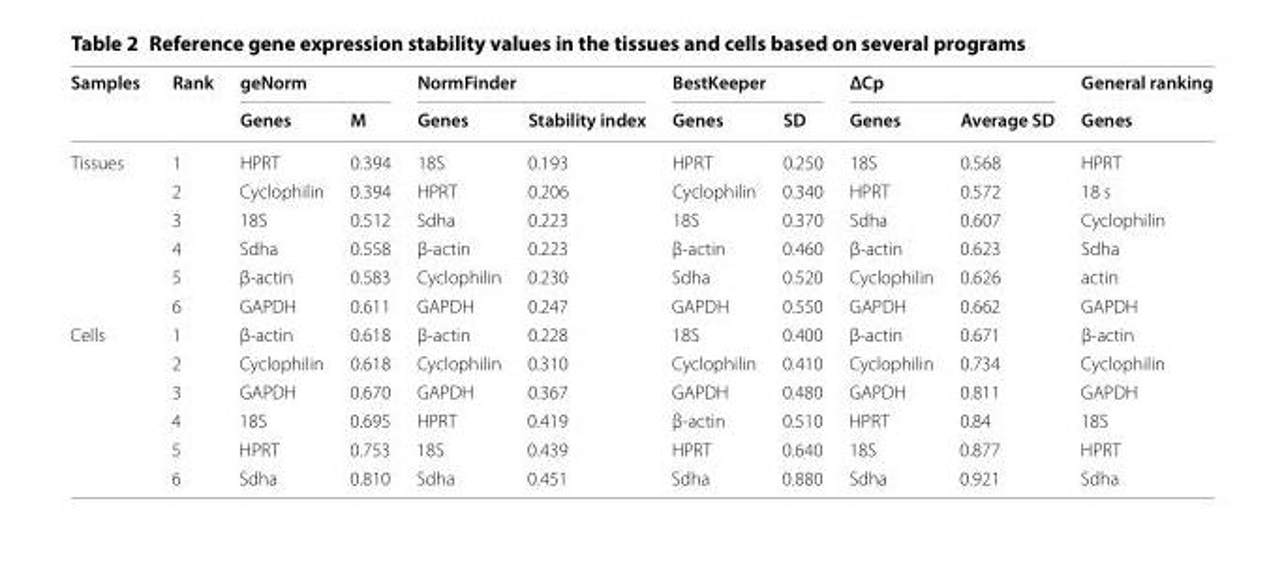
<table><thead><tr><td rowspan="2">Samples</td><td rowspan="2">Rank</td><td colspan="2">geNorm</td><td colspan="2">NormFinder</td><td colspan="2">BestKeeper</td><td colspan="2">ΔCp</td><td rowspan="2">General ranking Genes</td></tr><tr><td>Genes</td><td>M</td><td>Genes</td><td>Stability index</td><td>Genes</td><td>SD</td><td>Genes</td><td>Average SD</td></tr></thead><tbody><tr><td rowspan="6">Tissues</td><td>1</td><td>HPRT</td><td>0.394</td><td>18S</td><td>0.193</td><td>HPRT</td><td>0.250</td><td>18S</td><td>0.568</td><td>HPRT</td></tr><tr><td>2</td><td>Cyclophilin</td><td>0.394</td><td>HPRT</td><td>0.206</td><td>Cyclophilin</td><td>0.340</td><td>HPRT</td><td>0.572</td><td>18 s</td></tr><tr><td>3</td><td>18S</td><td>0.512</td><td>Sdha</td><td>0.223</td><td>18S</td><td>0.370</td><td>Sdha</td><td>0.607</td><td>Cyclophilin</td></tr><tr><td>4</td><td>Sdha</td><td>0.558</td><td>β-actin</td><td>0.223</td><td>β-actin</td><td>0.460</td><td>β-actin</td><td>0.623</td><td>Sdha</td></tr><tr><td>5</td><td>β-actin</td><td>0.583</td><td>Cyclophilin</td><td>0.230</td><td>Sdha</td><td>0.520</td><td>Cyclophilin</td><td>0.626</td><td>actin</td></tr><tr><td>6</td><td>GAPDH</td><td>0.611</td><td>GAPDH</td><td>0.247</td><td>GAPDH</td><td>0.550</td><td>GAPDH</td><td>0.662</td><td>GAPDH</td></tr><tr><td rowspan="6">Cells</td><td>1</td><td>β-actin</td><td>0.618</td><td>β-actin</td><td>0.228</td><td>18S</td><td>0.400</td><td>β-actin</td><td>0.671</td><td>β-actin</td></tr><tr><td>2</td><td>Cyclophilin</td><td>0.618</td><td>Cyclophilin</td><td>0.310</td><td>Cyclophilin</td><td>0.410</td><td>Cyclophilin</td><td>0.734</td><td>Cyclophilin</td></tr><tr><td>3</td><td>GAPDH</td><td>0.670</td><td>GAPDH</td><td>0.367</td><td>GAPDH</td><td>0.480</td><td>GAPDH</td><td>0.811</td><td>GAPDH</td></tr><tr><td>4</td><td>18S</td><td>0.695</td><td>HPRT</td><td>0.419</td><td>β-actin</td><td>0.510</td><td>HPRT</td><td>0.84</td><td>18S</td></tr><tr><td>5</td><td>HPRT</td><td>0.753</td><td>18S</td><td>0.439</td><td>HPRT</td><td>0.640</td><td>18S</td><td>0.877</td><td>HPRT</td></tr><tr><td>6</td><td>Sdha</td><td>0.810</td><td>Sdha</td><td>0.451</td><td>Sdha</td><td>0.880</td><td>Sdha</td><td>0.921</td><td>Sdha</td></tr></tbody></table>